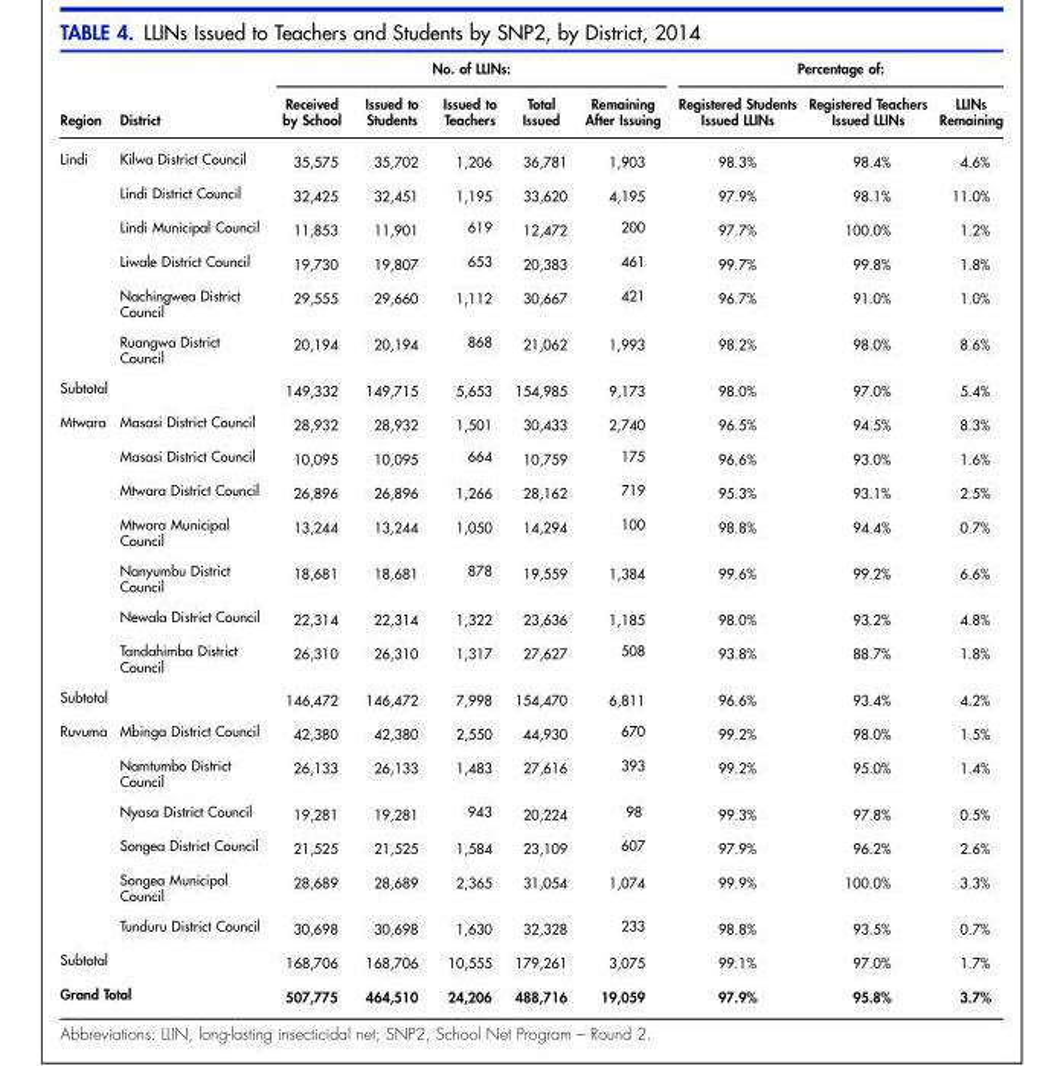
<table><thead><tr><td rowspan="2">Region</td><td rowspan="2">District</td><td colspan="5">No. of LLINs:</td><td colspan="3">Percentage of:</td></tr><tr><td>Received by School</td><td>Issued to Students</td><td>Issued to Teachers</td><td>Total Issued</td><td>Remaining After Issuing</td><td>Registered Students Issued LLINs</td><td>Registered Teachers Issued LLINs</td><td>LLINs Remaining</td></tr></thead><tbody><tr><td rowspan="6">Lindi</td><td>Kilwa District Council</td><td>35,575</td><td>35,702</td><td>1,206</td><td>36,781</td><td>1,903</td><td>98.3%</td><td>98.4%</td><td>4.6%</td></tr><tr><td>Lindi District Council</td><td>32,425</td><td>32,451</td><td>1,195</td><td>33,620</td><td>4,195</td><td>97.9%</td><td>98.1%</td><td>11.0%</td></tr><tr><td>Lindi Municipal Council</td><td>11,853</td><td>11,901</td><td>619</td><td>12,472</td><td>200</td><td>97.7%</td><td>100.0%</td><td>1.2%</td></tr><tr><td>Liwale District Council</td><td>19,730</td><td>19,807</td><td>653</td><td>20,383</td><td>461</td><td>99.7%</td><td>99.8%</td><td>1.8%</td></tr><tr><td>Nachingwea District Council</td><td>29,555</td><td>29,660</td><td>1,112</td><td>30,667</td><td>421</td><td>96.7%</td><td>91.0%</td><td>1.0%</td></tr><tr><td>Ruangwa District Council</td><td>20,194</td><td>20,194</td><td>868</td><td>21,062</td><td>1,993</td><td>98.2%</td><td>98.0%</td><td>8.6%</td></tr><tr><td>Subtotal</td><td></td><td>149,332</td><td>149,715</td><td>5,653</td><td>154,985</td><td>9,173</td><td>98.0%</td><td>97.0%</td><td>5.4%</td></tr><tr><td rowspan="7">Mtwara</td><td>Masasi District Council</td><td>28,932</td><td>28,932</td><td>1,501</td><td>30,433</td><td>2,740</td><td>96.5%</td><td>94.5%</td><td>8.3%</td></tr><tr><td>Masasi District Council</td><td>10,095</td><td>10,095</td><td>664</td><td>10,759</td><td>175</td><td>96.6%</td><td>93.0%</td><td>1.6%</td></tr><tr><td>Mtwara District Council</td><td>26,896</td><td>26,896</td><td>1,266</td><td>28,162</td><td>719</td><td>95.3%</td><td>93.1%</td><td>2.5%</td></tr><tr><td>Mtwara Municipal Council</td><td>13,244</td><td>13,244</td><td>1,050</td><td>14,294</td><td>100</td><td>98.8%</td><td>94.4%</td><td>0.7%</td></tr><tr><td>Nanyumbu District Council</td><td>18,681</td><td>18,681</td><td>878</td><td>19,559</td><td>1,384</td><td>99.6%</td><td>99.2%</td><td>6.6%</td></tr><tr><td>Newala District Council</td><td>22,314</td><td>22,314</td><td>1,322</td><td>23,636</td><td>1,185</td><td>98.0%</td><td>93.2%</td><td>4.8%</td></tr><tr><td>Tandahimba District Council</td><td>26,310</td><td>26,310</td><td>1,317</td><td>27,627</td><td>508</td><td>93.8%</td><td>88.7%</td><td>1.8%</td></tr><tr><td>Subtotal</td><td></td><td>146,472</td><td>146,472</td><td>7,998</td><td>154,470</td><td>6,811</td><td>96.6%</td><td>93.4%</td><td>4.2%</td></tr><tr><td rowspan="6">Ruvuma</td><td>Mbinga District Council</td><td>42,380</td><td>42,380</td><td>2,550</td><td>44,930</td><td>670</td><td>99.2%</td><td>98.0%</td><td>1.5%</td></tr><tr><td>Namtumbo District Council</td><td>26,133</td><td>26,133</td><td>1,483</td><td>27,616</td><td>393</td><td>99.2%</td><td>95.0%</td><td>1.4%</td></tr><tr><td>Nyasa District Council</td><td>19,281</td><td>19,281</td><td>943</td><td>20,224</td><td>98</td><td>99.3%</td><td>97.8%</td><td>0.5%</td></tr><tr><td>Songea District Council</td><td>21,525</td><td>21,525</td><td>1,584</td><td>23,109</td><td>607</td><td>97.9%</td><td>96.2%</td><td>2.6%</td></tr><tr><td>Songea Municipal Council</td><td>28,689</td><td>28,689</td><td>2,365</td><td>31,054</td><td>1,074</td><td>99.9%</td><td>100.0%</td><td>3.3%</td></tr><tr><td>Tunduru District Council</td><td>30,698</td><td>30,698</td><td>1,630</td><td>32,328</td><td>233</td><td>98.8%</td><td>93.5%</td><td>0.7%</td></tr><tr><td>Subtotal</td><td></td><td>168,706</td><td>168,706</td><td>10,555</td><td>179,261</td><td>3,075</td><td>99.1%</td><td>97.0%</td><td>1.7%</td></tr><tr><td colspan="2">Grand Total</td><td>507,775</td><td>464,510</td><td>24,206</td><td>488,716</td><td>19,059</td><td>97.9%</td><td>95.8%</td><td>3.7%</td></tr></tbody></table>